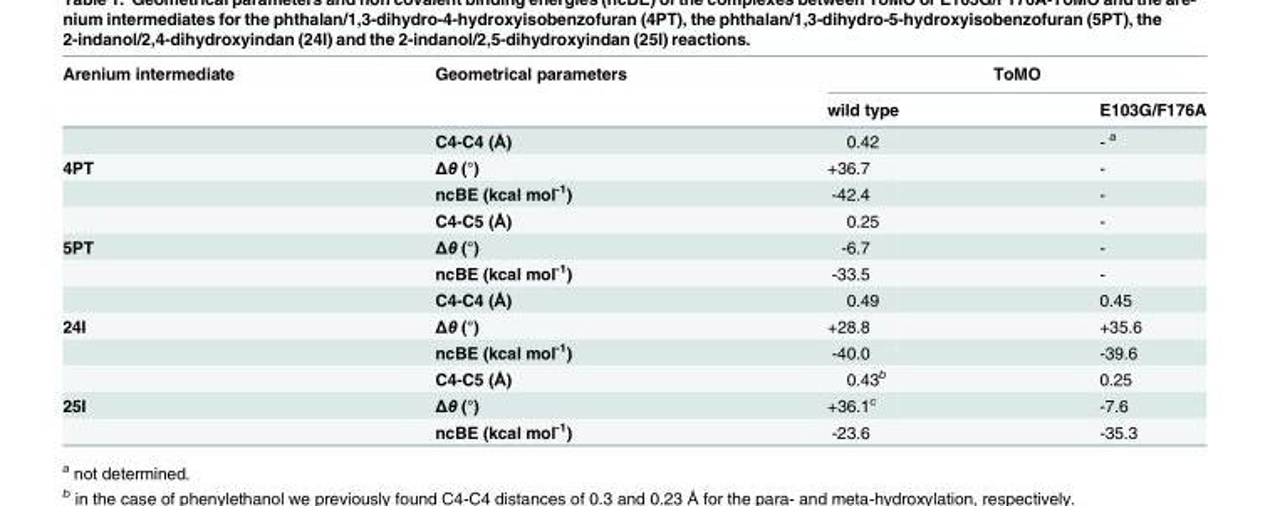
<table><thead><tr><td rowspan="2">Arenium intermediate</td><td rowspan="2">Geometrical parameters</td><td colspan="2">ToMO</td></tr><tr><td>wild type</td><td>E103G/F176A</td></tr></thead><tbody><tr><td></td><td>C4-C4 (Å)</td><td>0.42</td><td>- <sup>a</sup></td></tr><tr><td rowspan="3">4PT</td><td>Δθ (°)</td><td>+36.7</td><td>-</td></tr><tr><td>ncBE (kcal mol<sup>-1</sup>)</td><td>-42.4</td><td>-</td></tr><tr><td>C4-C5 (Å)</td><td>0.25</td><td>-</td></tr><tr><td rowspan="3">5PT</td><td>Δθ (°)</td><td>-6.7</td><td>-</td></tr><tr><td>ncBE (kcal mol<sup>-1</sup>)</td><td>-33.5</td><td>-</td></tr><tr><td>C4-C4 (Å)</td><td>0.49</td><td>0.45</td></tr><tr><td rowspan="3">24I</td><td>Δθ (°)</td><td>+28.8</td><td>+35.6</td></tr><tr><td>ncBE (kcal mol<sup>-1</sup>)</td><td>-40.0</td><td>-39.6</td></tr><tr><td>C4-C5 (Å)</td><td>0.43<sup>b</sup></td><td>0.25</td></tr><tr><td rowspan="2">25I</td><td>Δθ (°)</td><td>+36.1<sup>c</sup></td><td>-7.6</td></tr><tr><td>ncBE (kcal mol<sup>-1</sup>)</td><td>-23.6</td><td>-35.3</td></tr></tbody></table>